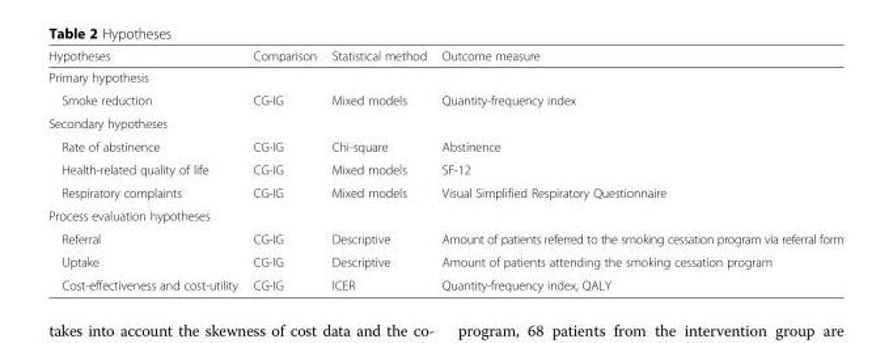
<table><thead><tr><td>Hypotheses</td><td>Comparison</td><td>Statistical method</td><td>Outcome measure</td></tr></thead><tbody><tr><td colspan="4">Primary hypothesis</td></tr><tr><td>Smoke reduction</td><td>CG-IG</td><td>Mixed models</td><td>Quantity-frequency index</td></tr><tr><td colspan="4">Secondary hypotheses</td></tr><tr><td>Rate of abstinence</td><td>CG-IG</td><td>Chi-square</td><td>Abstinence</td></tr><tr><td>Health-related quality of life</td><td>CG-IG</td><td>Mixed models</td><td>SF-12</td></tr><tr><td>Respiratory complaints</td><td>CG-IG</td><td>Mixed models</td><td>Visual Simplified Respiratory Questionnaire</td></tr><tr><td colspan="4">Process evaluation hypotheses</td></tr><tr><td>Referral</td><td>CG-IG</td><td>Descriptive</td><td>Amount of patients referred to the smoking cessation program via referral form</td></tr><tr><td>Uptake</td><td>CG-IG</td><td>Descriptive</td><td>Amount of patients attending the smoking cessation program</td></tr><tr><td>Cost-effectiveness and cost-utility</td><td>CG-IG</td><td>ICER</td><td>Quantity-frequency index, QALY</td></tr></tbody></table>